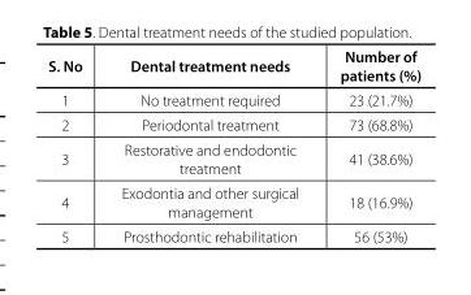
<table><thead><tr><td>S. No</td><td>Dental treatment needs</td><td>Number of patients (%)</td></tr></thead><tbody><tr><td>1</td><td>No treatment required</td><td>23 (21.7%)</td></tr><tr><td>2</td><td>Periodontal treatment</td><td>73 (68.8%)</td></tr><tr><td>3</td><td>Restorative and endodontic treatment</td><td>41 (38.6%)</td></tr><tr><td>4</td><td>Exodontia and other surgical management</td><td>18 (16.9%)</td></tr><tr><td>5</td><td>Prosthodontic rehabilitation</td><td>56 (53%)</td></tr></tbody></table>